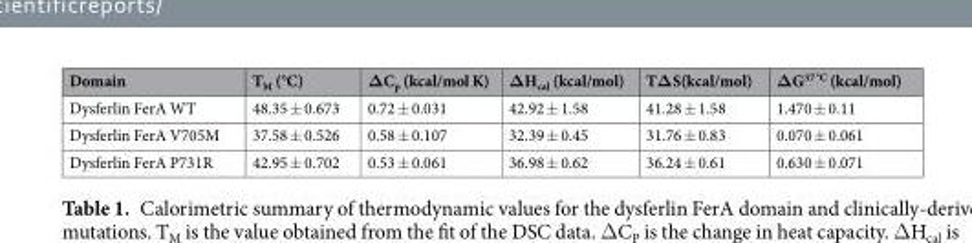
<table><thead><tr><td>Domain</td><td>T<sub>M</sub> (°C)</td><td>ΔC<sub>p</sub> (kcal/mol K)</td><td>ΔH<sub>cal</sub> (kcal/mol)</td><td>TΔS(kcal/mol)</td><td>ΔG<sup>37 °C</sup> (kcal/mol)</td></tr></thead><tbody><tr><td>Dysferlin FerA WT</td><td>48.35 ± 0.673</td><td>0.72 ± 0.031</td><td>42.92 ± 1.58</td><td>41.28 ± 1.58</td><td>1.470 ± 0.11</td></tr><tr><td>Dysferlin FerA V705M</td><td>37.58 ± 0.526</td><td>0.58 ± 0.107</td><td>32.39 ± 0.45</td><td>31.76 ± 0.83</td><td>0.070 ± 0.061</td></tr><tr><td>Dysferlin FerA P731R</td><td>42.95 ± 0.702</td><td>0.53 ± 0.061</td><td>36.98 ± 0.62</td><td>36.24 ± 0.61</td><td>0.630 ± 0.071</td></tr></tbody></table>